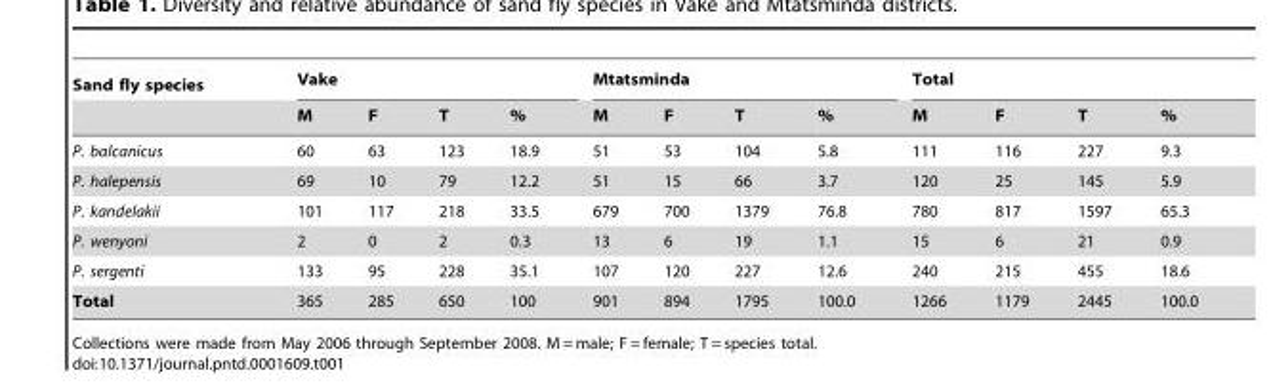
<table><thead><tr><td rowspan="2">Sand fly species</td><td colspan="4">Vake</td><td colspan="4">Mtatsminda</td><td colspan="4">Total</td></tr><tr><td>M</td><td>F</td><td>T</td><td>%</td><td>M</td><td>F</td><td>T</td><td>%</td><td>M</td><td>F</td><td>T</td><td>%</td></tr></thead><tbody><tr><td>P. balcanicus</td><td>60</td><td>63</td><td>123</td><td>18.9</td><td>51</td><td>53</td><td>104</td><td>5.8</td><td>111</td><td>116</td><td>227</td><td>9.3</td></tr><tr><td>P. halepensis</td><td>69</td><td>10</td><td>79</td><td>12.2</td><td>51</td><td>15</td><td>66</td><td>3.7</td><td>120</td><td>25</td><td>145</td><td>5.9</td></tr><tr><td>P. kandelakii</td><td>101</td><td>117</td><td>218</td><td>33.5</td><td>679</td><td>700</td><td>1379</td><td>76.8</td><td>780</td><td>817</td><td>1597</td><td>65.3</td></tr><tr><td>P. wenyoni</td><td>2</td><td>0</td><td>2</td><td>0.3</td><td>13</td><td>6</td><td>19</td><td>1.1</td><td>15</td><td>6</td><td>21</td><td>0.9</td></tr><tr><td>P. sergenti</td><td>133</td><td>95</td><td>228</td><td>35.1</td><td>107</td><td>120</td><td>227</td><td>12.6</td><td>240</td><td>215</td><td>455</td><td>18.6</td></tr><tr><td>Total</td><td>365</td><td>285</td><td>650</td><td>100</td><td>901</td><td>894</td><td>1795</td><td>100.0</td><td>1266</td><td>1179</td><td>2445</td><td>100.0</td></tr></tbody></table>